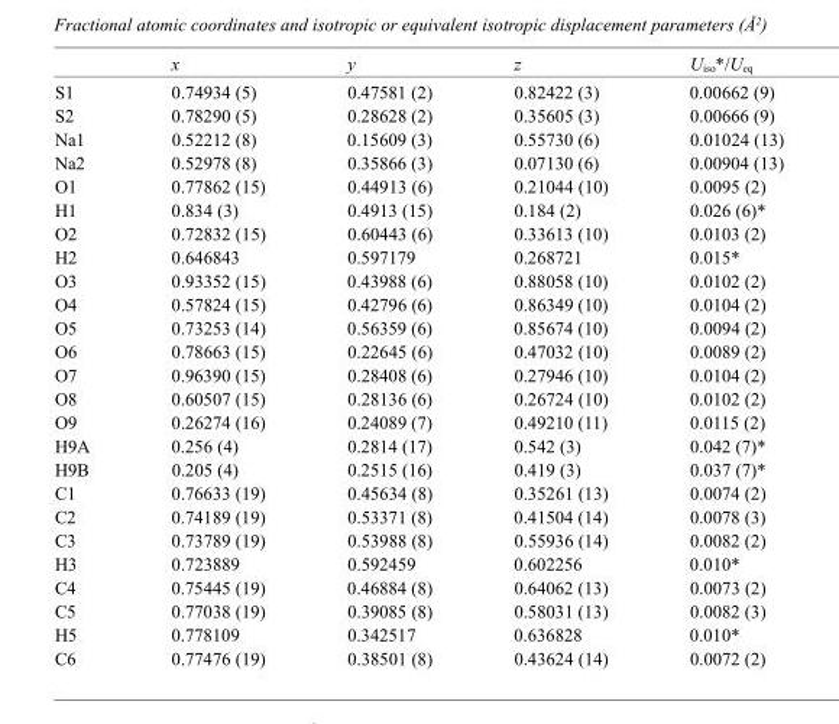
<table><thead><tr><td></td><td>x</td><td>y</td><td>z</td><td>U<sub>iso</sub>*/U<sub>eq</sub></td></tr></thead><tbody><tr><td>S1</td><td>0.74934 (5)</td><td>0.47581 (2)</td><td>0.82422 (3)</td><td>0.00662 (9)</td></tr><tr><td>S2</td><td>0.78290 (5)</td><td>0.28628 (2)</td><td>0.35605 (3)</td><td>0.00666 (9)</td></tr><tr><td>Na1</td><td>0.52212 (8)</td><td>0.15609 (3)</td><td>0.55730 (6)</td><td>0.01024 (13)</td></tr><tr><td>Na2</td><td>0.52978 (8)</td><td>0.35866 (3)</td><td>0.07130 (6)</td><td>0.00904 (13)</td></tr><tr><td>O1</td><td>0.77862 (15)</td><td>0.44913 (6)</td><td>0.21044 (10)</td><td>0.0095 (2)</td></tr><tr><td>H1</td><td>0.834 (3)</td><td>0.4913 (15)</td><td>0.184 (2)</td><td>0.026 (6)*</td></tr><tr><td>O2</td><td>0.72832 (15)</td><td>0.60443 (6)</td><td>0.33613 (10)</td><td>0.0103 (2)</td></tr><tr><td>H2</td><td>0.646843</td><td>0.597179</td><td>0.268721</td><td>0.015*</td></tr><tr><td>O3</td><td>0.93352 (15)</td><td>0.43988 (6)</td><td>0.88058 (10)</td><td>0.0102 (2)</td></tr><tr><td>O4</td><td>0.57824 (15)</td><td>0.42796 (6)</td><td>0.86349 (10)</td><td>0.0104 (2)</td></tr><tr><td>O5</td><td>0.73253 (14)</td><td>0.56359 (6)</td><td>0.85674 (10)</td><td>0.0094 (2)</td></tr><tr><td>O6</td><td>0.78663 (15)</td><td>0.22645 (6)</td><td>0.47032 (10)</td><td>0.0089 (2)</td></tr><tr><td>O7</td><td>0.96390 (15)</td><td>0.28408 (6)</td><td>0.27946 (10)</td><td>0.0104 (2)</td></tr><tr><td>O8</td><td>0.60507 (15)</td><td>0.28136 (6)</td><td>0.26724 (10)</td><td>0.0102 (2)</td></tr><tr><td>O9</td><td>0.26274 (16)</td><td>0.24089 (7)</td><td>0.49210 (11)</td><td>0.0115 (2)</td></tr><tr><td>H9A</td><td>0.256 (4)</td><td>0.2814 (17)</td><td>0.542 (3)</td><td>0.042 (7)*</td></tr><tr><td>H9B</td><td>0.205 (4)</td><td>0.2515 (16)</td><td>0.419 (3)</td><td>0.037 (7)*</td></tr><tr><td>C1</td><td>0.76633 (19)</td><td>0.45634 (8)</td><td>0.35261 (13)</td><td>0.0074 (2)</td></tr><tr><td>C2</td><td>0.74189 (19)</td><td>0.53371 (8)</td><td>0.41504 (14)</td><td>0.0078 (3)</td></tr><tr><td>C3</td><td>0.73789 (19)</td><td>0.53988 (8)</td><td>0.55936 (14)</td><td>0.0082 (2)</td></tr><tr><td>H3</td><td>0.723889</td><td>0.592459</td><td>0.602256</td><td>0.010*</td></tr><tr><td>C4</td><td>0.75445 (19)</td><td>0.46884 (8)</td><td>0.64062 (13)</td><td>0.0073 (2)</td></tr><tr><td>C5</td><td>0.77038 (19)</td><td>0.39085 (8)</td><td>0.58031 (13)</td><td>0.0082 (3)</td></tr><tr><td>H5</td><td>0.778109</td><td>0.342517</td><td>0.636828</td><td>0.010*</td></tr><tr><td>C6</td><td>0.77476 (19)</td><td>0.38501 (8)</td><td>0.43624 (14)</td><td>0.0072 (2)</td></tr></tbody></table>